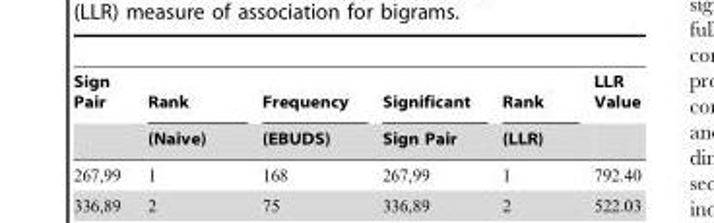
<table><thead><tr><td rowspan="2">Sign Pair</td><td rowspan="2">Rank (Naive)</td><td rowspan="2">Frequency (EBUDS)</td><td rowspan="2">Significant Sign Pair</td><td rowspan="2">Rank (LLR)</td><td rowspan="2">LLR Value</td></tr><tr></tr></thead><tbody></tbody></table>